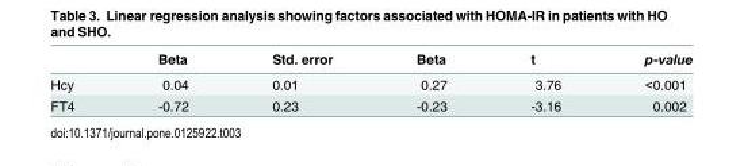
<table><thead><tr><td></td><td>Beta</td><td>Std. error</td><td>Beta</td><td>t</td><td>p-value</td></tr></thead><tbody><tr><td>Hcy</td><td>0.04</td><td>0.01</td><td>0.27</td><td>3.76</td><td>&lt;0.001</td></tr><tr><td>FT4</td><td>-0.72</td><td>0.23</td><td>-0.23</td><td>-3.16</td><td>0.002</td></tr></tbody></table>